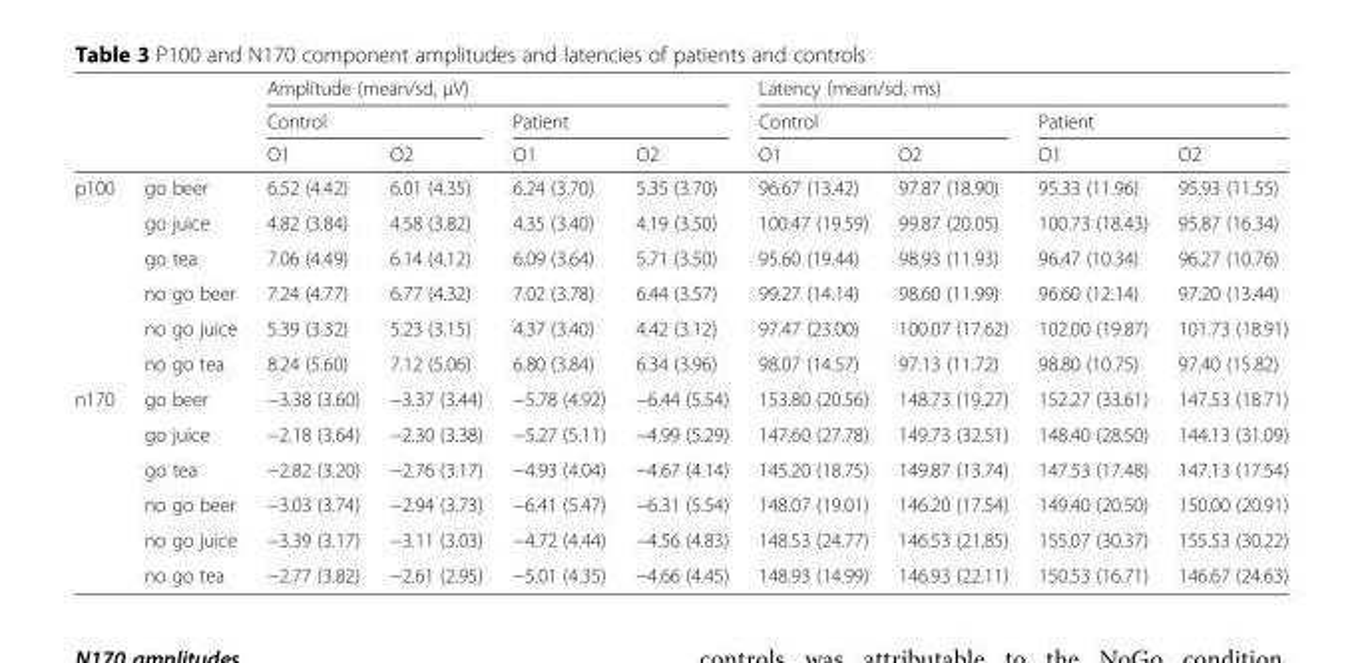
<table><thead><tr><td rowspan="3"></td><td rowspan="3"></td><td colspan="4">Amplitude (mean/sd, μV)</td><td colspan="4">Latency (mean/sd, ms)</td></tr><tr><td colspan="2">Control</td><td colspan="2">Patient</td><td colspan="2">Control</td><td colspan="2">Patient</td></tr><tr><td>O1</td><td>O2</td><td>O1</td><td>O2</td><td>O1</td><td>O2</td><td>O1</td><td>O2</td></tr></thead><tbody><tr><td rowspan="6">p100</td><td>go beer</td><td>6.52 (4.42)</td><td>6.01 (4.35)</td><td>6.24 (3.70)</td><td>5.35 (3.70)</td><td>96.67 (13.42)</td><td>97.87 (18.90)</td><td>95.33 (11.96)</td><td>95.93 (11.55)</td></tr><tr><td>go juice</td><td>4.82 (3.84)</td><td>4.58 (3.82)</td><td>4.35 (3.40)</td><td>4.19 (3.50)</td><td>100.47 (19.59)</td><td>99.87 (20.05)</td><td>100.73 (18.43)</td><td>95.87 (16.34)</td></tr><tr><td>go tea</td><td>7.06 (4.49)</td><td>6.14 (4.12)</td><td>6.09 (3.64)</td><td>5.71 (3.50)</td><td>95.60 (19.44)</td><td>98.93 (11.93)</td><td>96.47 (10.34)</td><td>96.27 (10.76)</td></tr><tr><td>no go beer</td><td>7.24 (4.77)</td><td>6.77 (4.32)</td><td>7.02 (3.78)</td><td>6.44 (3.57)</td><td>99.27 (14.14)</td><td>98.60 (11.99)</td><td>96.60 (12.14)</td><td>97.20 (13.44)</td></tr><tr><td>no go juice</td><td>5.39 (3.32)</td><td>5.23 (3.15)</td><td>4.37 (3.40)</td><td>4.42 (3.12)</td><td>97.47 (23.00)</td><td>100.07 (17.62)</td><td>102.00 (19.87)</td><td>101.73 (18.91)</td></tr><tr><td>no go tea</td><td>8.24 (5.60)</td><td>7.12 (5.06)</td><td>6.80 (3.84)</td><td>6.34 (3.96)</td><td>98.07 (14.57)</td><td>97.13 (11.72)</td><td>98.80 (10.75)</td><td>97.40 (15.82)</td></tr><tr><td rowspan="6">n170</td><td>go beer</td><td>−3.38 (3.60)</td><td>−3.37 (3.44)</td><td>−5.78 (4.92)</td><td>−6.44 (5.54)</td><td>153.80 (20.56)</td><td>148.73 (19.27)</td><td>152.27 (33.61)</td><td>147.53 (18.71)</td></tr><tr><td>go juice</td><td>−2.18 (3.64)</td><td>−2.30 (3.38)</td><td>−5.27 (5.11)</td><td>−4.99 (5.29)</td><td>147.60 (27.78)</td><td>149.73 (32.51)</td><td>148.40 (28.50)</td><td>144.13 (31.09)</td></tr><tr><td>go tea</td><td>−2.82 (3.20)</td><td>−2.76 (3.17)</td><td>−4.93 (4.04)</td><td>−4.67 (4.14)</td><td>145.20 (18.75)</td><td>149.87 (13.74)</td><td>147.53 (17.48)</td><td>147.13 (17.54)</td></tr><tr><td>no go beer</td><td>−3.03 (3.74)</td><td>−2.94 (3.73)</td><td>−6.41 (5.47)</td><td>−6.31 (5.54)</td><td>148.07 (19.01)</td><td>146.20 (17.54)</td><td>149.40 (20.50)</td><td>150.00 (20.91)</td></tr><tr><td>no go juice</td><td>−3.39 (3.17)</td><td>−3.11 (3.03)</td><td>−4.72 (4.44)</td><td>−4.56 (4.83)</td><td>148.53 (24.77)</td><td>146.53 (21.85)</td><td>155.07 (30.37)</td><td>155.53 (30.22)</td></tr><tr><td>no go tea</td><td>−2.77 (3.82)</td><td>−2.61 (2.95)</td><td>−5.01 (4.35)</td><td>−4.66 (4.45)</td><td>148.93 (14.99)</td><td>146.93 (22.11)</td><td>150.53 (16.71)</td><td>146.67 (24.63)</td></tr></tbody></table>